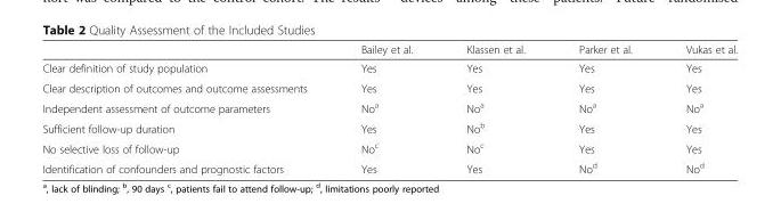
<table><thead><tr><td></td><td>Bailey et al.</td><td>Klassen et al.</td><td>Parker et al.</td><td>Vukas et al.</td></tr></thead><tbody><tr><td>Clear definition of study population</td><td>Yes</td><td>Yes</td><td>Yes</td><td>Yes</td></tr><tr><td>Clear description of outcomes and outcome assessments</td><td>Yes</td><td>Yes</td><td>Yes</td><td>Yes</td></tr><tr><td>Independent assessment of outcome parameters</td><td>No<sup>a</sup></td><td>No<sup>a</sup></td><td>No<sup>a</sup></td><td>No<sup>a</sup></td></tr><tr><td>Sufficient follow-up duration</td><td>Yes</td><td>No<sup>b</sup></td><td>Yes</td><td>Yes</td></tr><tr><td>No selective loss of follow-up</td><td>No<sup>c</sup></td><td>No<sup>c</sup></td><td>Yes</td><td>Yes</td></tr><tr><td>Identification of confounders and prognostic factors</td><td>Yes</td><td>Yes</td><td>No<sup>d</sup></td><td>No<sup>d</sup></td></tr></tbody></table>